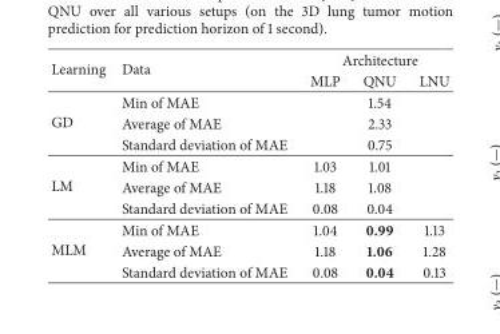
<table><thead><tr><td rowspan="2">Learning</td><td rowspan="2">Data</td><td colspan="3">Architecture</td></tr><tr><td>MLP</td><td>QNU</td><td>LNU</td></tr></thead><tbody><tr><td rowspan="3">GD</td><td>Min of MAE</td><td></td><td>1.54</td><td></td></tr><tr><td>Average of MAE</td><td></td><td>2.33</td><td></td></tr><tr><td>Standard deviation of MAE</td><td></td><td>0.75</td><td></td></tr><tr><td rowspan="3">LM</td><td>Min of MAE</td><td>1.03</td><td>1.01</td><td></td></tr><tr><td>Average of MAE</td><td>1.18</td><td>1.08</td><td></td></tr><tr><td>Standard deviation of MAE</td><td>0.08</td><td>0.04</td><td></td></tr><tr><td rowspan="3">MLM</td><td>Min of MAE</td><td>1.04</td><td>0.99</td><td>1.13</td></tr><tr><td>Average of MAE</td><td>1.18</td><td>1.06</td><td>1.28</td></tr><tr><td>Standard deviation of MAE</td><td>0.08</td><td>0.04</td><td>0.13</td></tr></tbody></table>